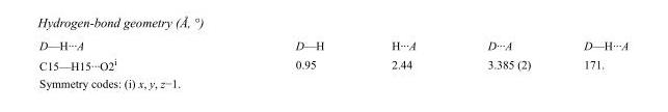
<table><tbody><tr><td>D—H···A</td><td>D—H</td><td>H···A</td><td>D···A</td><td>D—H···A</td></tr><tr><td>C15—H15···O2<sup>i</sup></td><td>0.95</td><td>2.44</td><td>3.385 (2)</td><td>171.</td></tr></tbody></table>